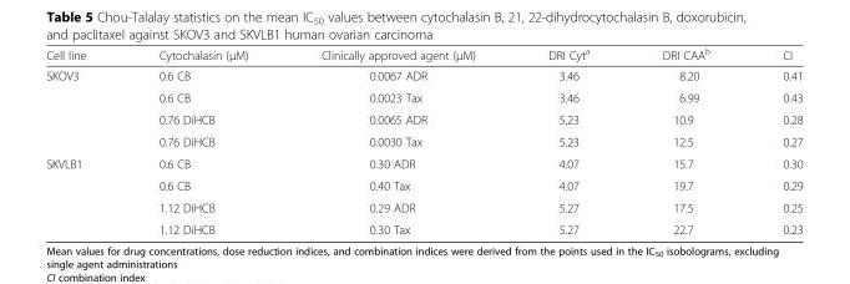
<table><thead><tr><td>Cell line</td><td>Cytochalasin (μM)</td><td>Clinically approved agent (μM)</td><td>DRI Cyt<sup>a</sup></td><td>DRI CAA<sup>b</sup></td><td>CI</td></tr></thead><tbody><tr><td rowspan="4">SKOV3</td><td>0.6 CB</td><td>0.0067 ADR</td><td>3.46</td><td>8.20</td><td>0.41</td></tr><tr><td>0.6 CB</td><td>0.0023 Tax</td><td>3.46</td><td>6.99</td><td>0.43</td></tr><tr><td>0.76 DiHCB</td><td>0.0065 ADR</td><td>5.23</td><td>10.9</td><td>0.28</td></tr><tr><td>0.76 DiHCB</td><td>0.0030 Tax</td><td>5.23</td><td>12.5</td><td>0.27</td></tr><tr><td rowspan="4">SKVLB1</td><td>0.6 CB</td><td>0.30 ADR</td><td>4.07</td><td>15.7</td><td>0.30</td></tr><tr><td>0.6 CB</td><td>0.40 Tax</td><td>4.07</td><td>19.7</td><td>0.29</td></tr><tr><td>1.12 DiHCB</td><td>0.29 ADR</td><td>5.27</td><td>17.5</td><td>0.25</td></tr><tr><td>1.12 DiHCB</td><td>0.30 Tax</td><td>5.27</td><td>22.7</td><td>0.23</td></tr></tbody></table>